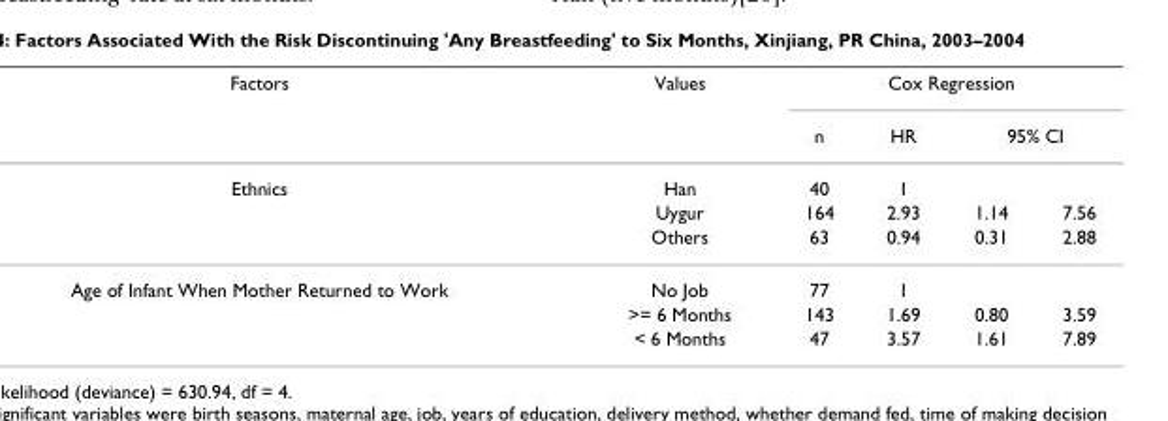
<table><thead><tr><td rowspan="3">Factors Ethnics</td><td rowspan="3">Values Han</td><td colspan="4">Cox Regression</td></tr><tr><td rowspan="2">n 40</td><td rowspan="2">HR 1</td><td colspan="2">95% CI</td></tr><tr><td></td><td></td></tr></thead><tbody><tr><td></td><td>Uygur</td><td>164</td><td>2.93</td><td>1.14</td><td>7.56</td></tr><tr><td></td><td>Others</td><td>63</td><td>0.94</td><td>0.31</td><td>2.88</td></tr><tr><td rowspan="3">Age of Infant When Mother Returned to Work</td><td>No Job</td><td>77</td><td>1</td><td></td><td></td></tr><tr><td>&gt;= 6 Months</td><td>143</td><td>1.69</td><td>0.80</td><td>3.59</td></tr><tr><td>&lt; 6 Months</td><td>47</td><td>3.57</td><td>1.61</td><td>7.89</td></tr></tbody></table>